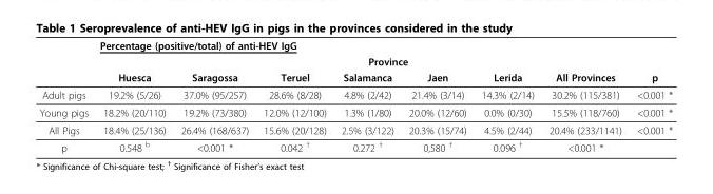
<table><thead><tr><td rowspan="3"></td><td rowspan="2" colspan="8">Percentage (positive/total) of anti-HEV IgG Province</td></tr><tr></tr><tr><td>Huesca</td><td>Saragossa</td><td>Teruel</td><td>Salamanca</td><td>Jaen</td><td>Lerida</td><td>All Provinces</td><td>p</td></tr></thead><tbody><tr><td>Adult pigs</td><td>19.2% (5/26)</td><td>37.0% (95/257)</td><td>28.6% (8/28)</td><td>4.8% (2/42)</td><td>21.4% (3/14)</td><td>14.3% (2/14)</td><td>30.2% (115/381)</td><td>&lt;0.001 *</td></tr><tr><td>Young pigs</td><td>18.2% (20/110)</td><td>19.2% (73/380)</td><td>12.0% (12/100)</td><td>1.3% (1/80)</td><td>20.0% (12/60)</td><td>0.0% (0/30)</td><td>15.5% (118/760)</td><td>&lt;0.001 *</td></tr><tr><td>All Pigs</td><td>18.4% (25/136)</td><td>26.4% (168/637)</td><td>15.6% (20/128)</td><td>2.5% (3/122)</td><td>20.3% (15/74)</td><td>4.5% (2/44)</td><td>20.4% (233/1141)</td><td>&lt;0.001 *</td></tr><tr><td>p</td><td>0.548 <sup>b</sup></td><td>&lt;0.001 *</td><td>0.042 <sup>†</sup></td><td>0.272 <sup>†</sup></td><td>0,580 <sup>†</sup></td><td>0.096 <sup>†</sup></td><td>&lt;0.001 *</td><td></td></tr></tbody></table>